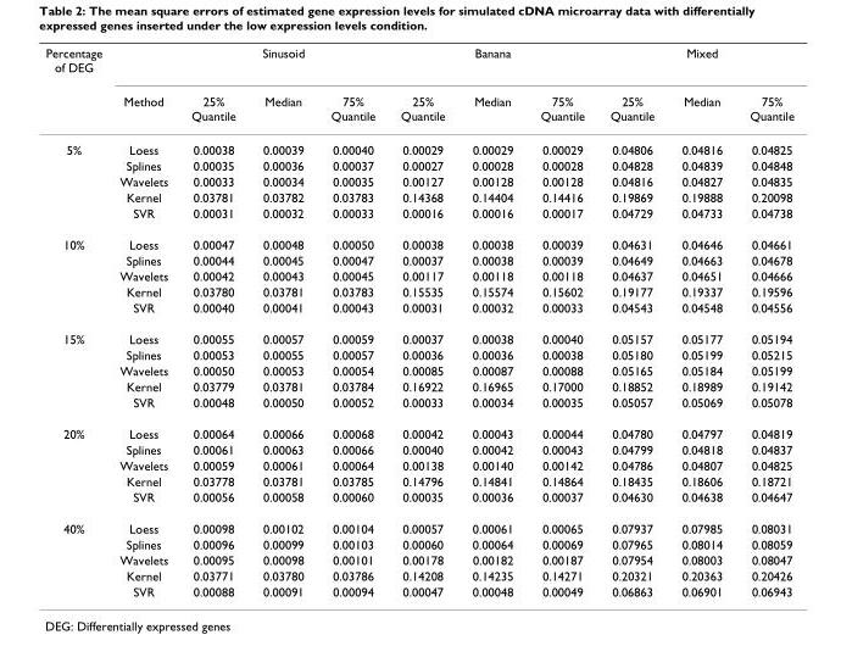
<table><thead><tr><td rowspan="2">Percentage of DEG</td><td rowspan="2">Method</td><td colspan="3">Sinusoid</td><td colspan="3">Banana</td><td colspan="3">Mixed</td></tr><tr><td>25% Quantile</td><td>Median</td><td>75% Quantile</td><td>25% Quantile</td><td>Median</td><td>75% Quantile</td><td>25% Quantile</td><td>Median</td><td>75% Quantile</td></tr></thead><tbody><tr><td rowspan="5">5%</td><td>Loess</td><td>0.00038</td><td>0.00039</td><td>0.00040</td><td>0.00029</td><td>0.00029</td><td>0.00029</td><td>0.04806</td><td>0.04816</td><td>0.04825</td></tr><tr><td>Splines</td><td>0.00035</td><td>0.00036</td><td>0.00037</td><td>0.00027</td><td>0.00028</td><td>0.00028</td><td>0.04828</td><td>0.04839</td><td>0.04848</td></tr><tr><td>Wavelets</td><td>0.00033</td><td>0.00034</td><td>0.00035</td><td>0.00127</td><td>0.00128</td><td>0.00128</td><td>0.04816</td><td>0.04827</td><td>0.04835</td></tr><tr><td>Kernel</td><td>0.03781</td><td>0.03782</td><td>0.03783</td><td>0.14368</td><td>0.14404</td><td>0.14416</td><td>0.19869</td><td>0.19888</td><td>0.20098</td></tr><tr><td>SVR</td><td>0.00031</td><td>0.00032</td><td>0.00033</td><td>0.00016</td><td>0.00016</td><td>0.00017</td><td>0.04729</td><td>0.04733</td><td>0.04738</td></tr><tr><td rowspan="5">10%</td><td>Loess</td><td>0.00047</td><td>0.00048</td><td>0.00050</td><td>0.00038</td><td>0.00038</td><td>0.00039</td><td>0.04631</td><td>0.04646</td><td>0.04661</td></tr><tr><td>Splines</td><td>0.00044</td><td>0.00045</td><td>0.00047</td><td>0.00037</td><td>0.00038</td><td>0.00039</td><td>0.04649</td><td>0.04663</td><td>0.04678</td></tr><tr><td>Wavelets</td><td>0.00042</td><td>0.00043</td><td>0.00045</td><td>0.00117</td><td>0.00118</td><td>0.00118</td><td>0.04637</td><td>0.04651</td><td>0.04666</td></tr><tr><td>Kernel</td><td>0.03780</td><td>0.03781</td><td>0.03783</td><td>0.15535</td><td>0.15574</td><td>0.15602</td><td>0.19177</td><td>0.19337</td><td>0.19596</td></tr><tr><td>SVR</td><td>0.00040</td><td>0.00041</td><td>0.00043</td><td>0.00031</td><td>0.00032</td><td>0.00033</td><td>0.04543</td><td>0.04548</td><td>0.04556</td></tr><tr><td rowspan="5">15%</td><td>Loess</td><td>0.00055</td><td>0.00057</td><td>0.00059</td><td>0.00037</td><td>0.00038</td><td>0.00040</td><td>0.05157</td><td>0.05177</td><td>0.05194</td></tr><tr><td>Splines</td><td>0.00053</td><td>0.00055</td><td>0.00057</td><td>0.00036</td><td>0.00036</td><td>0.00038</td><td>0.05180</td><td>0.05199</td><td>0.05215</td></tr><tr><td>Wavelets</td><td>0.00050</td><td>0.00053</td><td>0.00054</td><td>0.00085</td><td>0.00087</td><td>0.00088</td><td>0.05165</td><td>0.05184</td><td>0.05199</td></tr><tr><td>Kernel</td><td>0.03779</td><td>0.03781</td><td>0.03784</td><td>0.16922</td><td>0.16965</td><td>0.17000</td><td>0.18852</td><td>0.18989</td><td>0.19142</td></tr><tr><td>SVR</td><td>0.00048</td><td>0.00050</td><td>0.00052</td><td>0.00033</td><td>0.00034</td><td>0.00035</td><td>0.05057</td><td>0.05069</td><td>0.05078</td></tr><tr><td rowspan="5">20%</td><td>Loess</td><td>0.00064</td><td>0.00066</td><td>0.00068</td><td>0.00042</td><td>0.00043</td><td>0.00044</td><td>0.04780</td><td>0.04797</td><td>0.04819</td></tr><tr><td>Splines</td><td>0.00061</td><td>0.00063</td><td>0.00066</td><td>0.00040</td><td>0.00042</td><td>0.00043</td><td>0.04799</td><td>0.04818</td><td>0.04837</td></tr><tr><td>Wavelets</td><td>0.00059</td><td>0.00061</td><td>0.00064</td><td>0.00138</td><td>0.00140</td><td>0.00142</td><td>0.04786</td><td>0.04807</td><td>0.04825</td></tr><tr><td>Kernel</td><td>0.03778</td><td>0.03781</td><td>0.03785</td><td>0.14796</td><td>0.14841</td><td>0.14864</td><td>0.18435</td><td>0.18606</td><td>0.18721</td></tr><tr><td>SVR</td><td>0.00056</td><td>0.00058</td><td>0.00060</td><td>0.00035</td><td>0.00036</td><td>0.00037</td><td>0.04630</td><td>0.04638</td><td>0.04647</td></tr><tr><td rowspan="5">40%</td><td>Loess</td><td>0.00098</td><td>0.00102</td><td>0.00104</td><td>0.00057</td><td>0.00061</td><td>0.00065</td><td>0.07937</td><td>0.07985</td><td>0.08031</td></tr><tr><td>Splines</td><td>0.00096</td><td>0.00099</td><td>0.00103</td><td>0.00060</td><td>0.00064</td><td>0.00069</td><td>0.07965</td><td>0.08014</td><td>0.08059</td></tr><tr><td>Wavelets</td><td>0.00095</td><td>0.00098</td><td>0.00101</td><td>0.00178</td><td>0.00182</td><td>0.00187</td><td>0.07954</td><td>0.08003</td><td>0.08047</td></tr><tr><td>Kernel</td><td>0.03771</td><td>0.03780</td><td>0.03786</td><td>0.14208</td><td>0.14235</td><td>0.14271</td><td>0.20321</td><td>0.20363</td><td>0.20426</td></tr><tr><td>SVR</td><td>0.00088</td><td>0.00091</td><td>0.00094</td><td>0.00047</td><td>0.00048</td><td>0.00049</td><td>0.06863</td><td>0.06901</td><td>0.06943</td></tr></tbody></table>